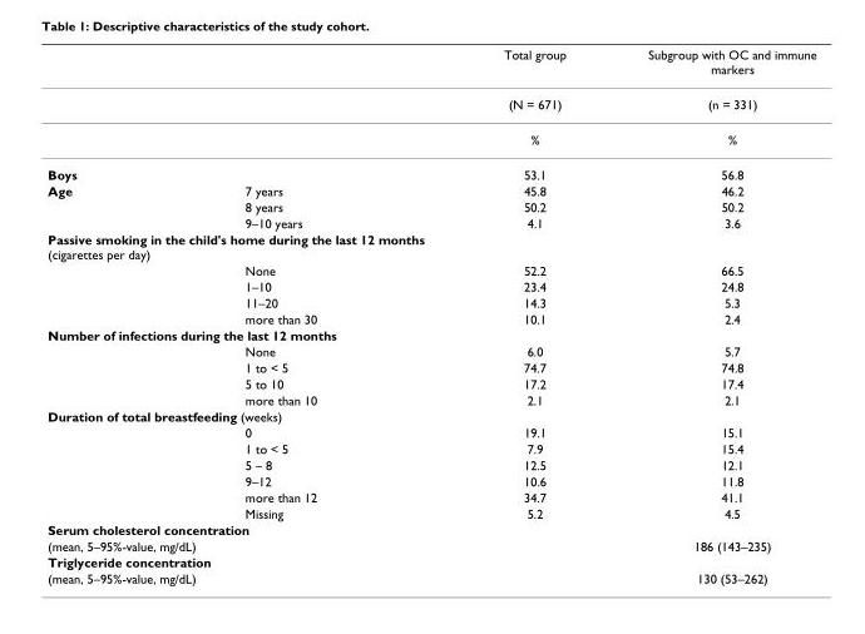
<table><thead><tr><td></td><td></td><td>Total group</td><td>Subgroup with OC and immune markers</td></tr></thead><tbody><tr><td></td><td></td><td>(N = 671)</td><td>(n = 331)</td></tr><tr><td></td><td></td><td>%</td><td>%</td></tr><tr><td>Boys</td><td></td><td>53.1</td><td>56.8</td></tr><tr><td rowspan="3">Age</td><td>7 years</td><td>45.8</td><td>46.2</td></tr><tr><td>8 years</td><td>50.2</td><td>50.2</td></tr><tr><td>9–10 years</td><td>4.1</td><td>3.6</td></tr><tr><td colspan="4">Passive smoking in the child&#x27;s home during the last 12 months (cigarettes per day)</td></tr><tr><td></td><td>None</td><td>52.2</td><td>66.5</td></tr><tr><td></td><td>1–10</td><td>23.4</td><td>24.8</td></tr><tr><td></td><td>11–20</td><td>14.3</td><td>5.3</td></tr><tr><td></td><td>more than 30</td><td>10.1</td><td>2.4</td></tr><tr><td colspan="4">Number of infections during the last 12 months</td></tr><tr><td></td><td>None</td><td>6.0</td><td>5.7</td></tr><tr><td></td><td>1 to &lt; 5</td><td>74.7</td><td>74.8</td></tr><tr><td></td><td>5 to 10</td><td>17.2</td><td>17.4</td></tr><tr><td></td><td>more than 10</td><td>2.1</td><td>2.1</td></tr><tr><td colspan="4">Duration of total breastfeeding (weeks)</td></tr><tr><td></td><td>0</td><td>19.1</td><td>15.1</td></tr><tr><td></td><td>1 to &lt; 5</td><td>7.9</td><td>15.4</td></tr><tr><td></td><td>5 – 8</td><td>12.5</td><td>12.1</td></tr><tr><td></td><td>9–12</td><td>10.6</td><td>11.8</td></tr><tr><td></td><td>more than 12</td><td>34.7</td><td>41.1</td></tr><tr><td></td><td>Missing</td><td>5.2</td><td>4.5</td></tr><tr><td colspan="4">Serum cholesterol concentration</td></tr><tr><td>(mean, 5–95%-value, mg/dL)</td><td></td><td></td><td>186 (143–235)</td></tr><tr><td colspan="4">Triglyceride concentration</td></tr><tr><td>(mean, 5–95%-value, mg/dL)</td><td></td><td></td><td>130 (53–262)</td></tr></tbody></table>